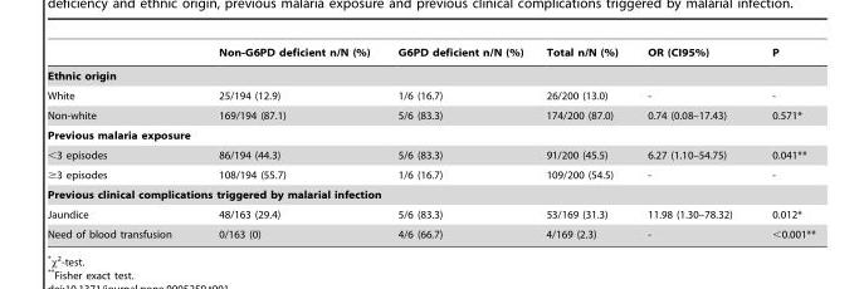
<table><thead><tr><td></td><td>Non-G6PD deficient n/N (%)</td><td>G6PD deficient n/N (%)</td><td>Total n/N (%)</td><td>OR (CI95%)</td><td>P</td></tr></thead><tbody><tr><td colspan="6">Ethnic origin</td></tr><tr><td>White</td><td>25/194 (12.9)</td><td>1/6 (16.7)</td><td>26/200 (13.0)</td><td>-</td><td>-</td></tr><tr><td>Non-white</td><td>169/194 (87.1)</td><td>5/6 (83.3)</td><td>174/200 (87.0)</td><td>0.74 (0.08–17.43)</td><td>0.571*</td></tr><tr><td colspan="6">Previous malaria exposure</td></tr><tr><td>&lt;3 episodes</td><td>86/194 (44.3)</td><td>5/6 (83.3)</td><td>91/200 (45.5)</td><td>6.27 (1.10–54.75)</td><td>0.041**</td></tr><tr><td>≥3 episodes</td><td>108/194 (55.7)</td><td>1/6 (16.7)</td><td>109/200 (54.5)</td><td>-</td><td>-</td></tr><tr><td colspan="6">Previous clinical complications triggered by malarial infection</td></tr><tr><td>Jaundice</td><td>48/163 (29.4)</td><td>5/6 (83.3)</td><td>53/169 (31.3)</td><td>11.98 (1.30–78.32)</td><td>0.012*</td></tr><tr><td>Need of blood transfusion</td><td>0/163 (0)</td><td>4/6 (66.7)</td><td>4/169 (2.3)</td><td>-</td><td>&lt;0.001**</td></tr></tbody></table>